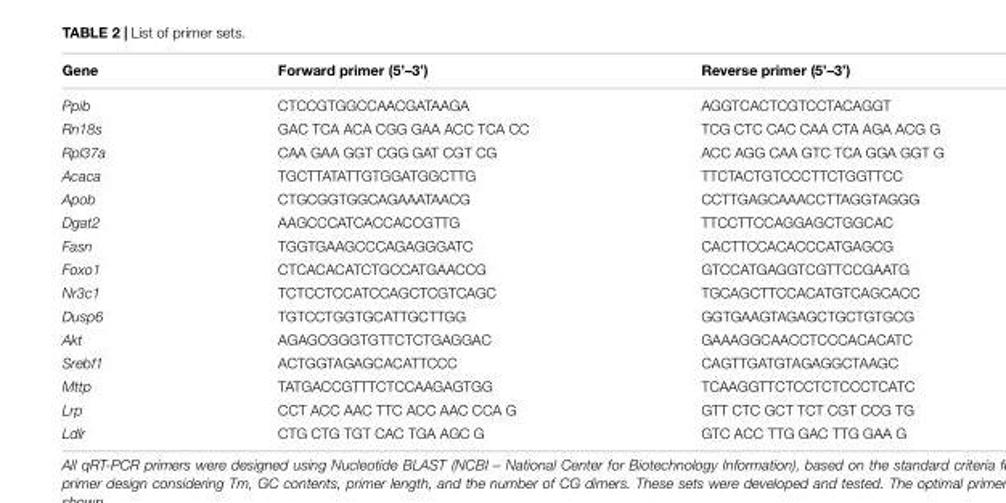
<table><thead><tr><td>Gene</td><td>Forward primer (5’–3’)</td><td>Reverse primer (5’–3’)</td></tr></thead><tbody><tr><td>Ppib</td><td>CTCCGTGGCCAACGATAAGA</td><td>AGGTCACTCGTCCTACAGGT</td></tr><tr><td>Rn18s</td><td>GAC TCA ACA CGG GAA ACC TCA CC</td><td>TCG CTC CAC CAA CTA AGA ACG G</td></tr><tr><td>Rpl37a</td><td>CAA GAA GGT CGG GAT CGT CG</td><td>ACC AGG CAA GTC TCA GGA GGT G</td></tr><tr><td>Acaca</td><td>TGCTTATATTGTGGATGGCTTG</td><td>TTCTACTGTCCCTTCTGGTTCC</td></tr><tr><td>Apob</td><td>CTGCGGTGGCAGAAATAACG</td><td>CCTTGAGCAAACCTTAGGTAGGG</td></tr><tr><td>Dgat2</td><td>AAGCCCATCACCACCGTTG</td><td>TTCCTTCCAGGAGCTGGCAC</td></tr><tr><td>Fasn</td><td>TGGTGAAGCCCAGAGGGATC</td><td>CACTTCCACACCCATGAGCG</td></tr><tr><td>Foxo1</td><td>CTCACACATCTGCCATGAACCG</td><td>GTCCATGAGGTCGTTCCGAATG</td></tr><tr><td>Nr3c1</td><td>TCTCCTCCATCCAGCTCGTCAGC</td><td>TGCAGCTTCCACATGTCAGCACC</td></tr><tr><td>Dusp6</td><td>TGTCCTGGTGCATTGCTTGG</td><td>GGTGAAGTAGAGCTGCTGTGCG</td></tr><tr><td>Akt</td><td>AGAGCGGGTGTTCTCTGAGGAC</td><td>GAAAGGCAACCTCCCACACATC</td></tr><tr><td>Srebf1</td><td>ACTGGTAGAGCACATTCCC</td><td>CAGTTGATGTAGAGGCTAAGC</td></tr><tr><td>Mttp</td><td>TATGACCGTTTCTCCAAGAGTGG</td><td>TCAAGGTTCTCCTCTCCCTCATC</td></tr><tr><td>Lrp</td><td>CCT ACC AAC TTC ACC AAC CCA G</td><td>GTT CTC GCT TCT CGT CCG TG</td></tr><tr><td>Ldlr</td><td>CTG CTG TGT CAC TGA AGC G</td><td>GTC ACC TTG GAC TTG GAA G</td></tr></tbody></table>